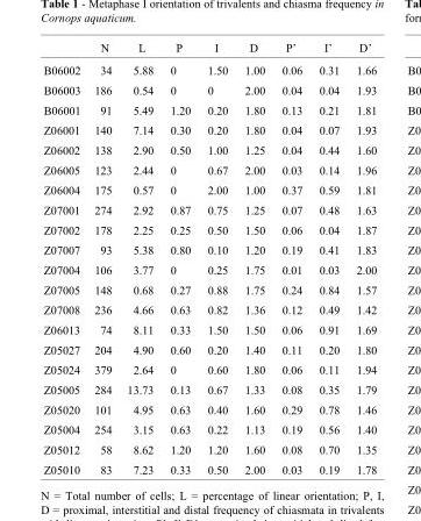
<table><thead><tr><td></td><td>N</td><td>L</td><td>P</td><td>I</td><td>D</td><td>P’</td><td>I’</td><td>D’</td></tr></thead><tbody><tr><td>B06002</td><td>34</td><td>5.88</td><td>0</td><td>1.50</td><td>1.00</td><td>0.06</td><td>0.31</td><td>1.66</td></tr><tr><td>B06003</td><td>186</td><td>0.54</td><td>0</td><td>0</td><td>2.00</td><td>0.04</td><td>0.04</td><td>1.93</td></tr><tr><td>B06001</td><td>91</td><td>5.49</td><td>1.20</td><td>0.20</td><td>1.80</td><td>0.13</td><td>0.21</td><td>1.81</td></tr><tr><td>Z06001</td><td>140</td><td>7.14</td><td>0.30</td><td>0.20</td><td>1.80</td><td>0.04</td><td>0.07</td><td>1.93</td></tr><tr><td>Z06002</td><td>138</td><td>2.90</td><td>0.50</td><td>1.00</td><td>1.25</td><td>0.04</td><td>0.44</td><td>1.60</td></tr><tr><td>Z06005</td><td>123</td><td>2.44</td><td>0</td><td>0.67</td><td>2.00</td><td>0.03</td><td>0.14</td><td>1.96</td></tr><tr><td>Z06004</td><td>175</td><td>0.57</td><td>0</td><td>2.00</td><td>1.00</td><td>0.37</td><td>0.59</td><td>1.81</td></tr><tr><td>Z07001</td><td>274</td><td>2.92</td><td>0.87</td><td>0.75</td><td>1.25</td><td>0.07</td><td>0.48</td><td>1.63</td></tr><tr><td>Z07002</td><td>178</td><td>2.25</td><td>0.25</td><td>0.50</td><td>1.50</td><td>0.06</td><td>0.04</td><td>1.87</td></tr><tr><td>Z07007</td><td>93</td><td>5.38</td><td>0.80</td><td>0.10</td><td>1.20</td><td>0.19</td><td>0.41</td><td>1.83</td></tr><tr><td>Z07004</td><td>106</td><td>3.77</td><td>0</td><td>0.25</td><td>1.75</td><td>0.01</td><td>0.03</td><td>2.00</td></tr><tr><td>Z07005</td><td>148</td><td>0.68</td><td>0.27</td><td>0.88</td><td>1.75</td><td>0.24</td><td>0.84</td><td>1.57</td></tr><tr><td>Z07008</td><td>236</td><td>4.66</td><td>0.63</td><td>0.82</td><td>1.36</td><td>0.12</td><td>0.49</td><td>1.42</td></tr><tr><td>Z06013</td><td>74</td><td>8.11</td><td>0.33</td><td>1.50</td><td>1.50</td><td>0.06</td><td>0.91</td><td>1.69</td></tr><tr><td>Z05027</td><td>204</td><td>4.90</td><td>0.60</td><td>0.20</td><td>1.40</td><td>0.11</td><td>0.20</td><td>1.80</td></tr><tr><td>Z05024</td><td>379</td><td>2.64</td><td>0</td><td>0.60</td><td>1.80</td><td>0.06</td><td>0.11</td><td>1.94</td></tr><tr><td>Z05005</td><td>284</td><td>13.73</td><td>0.13</td><td>0.67</td><td>1.33</td><td>0.08</td><td>0.35</td><td>1.79</td></tr><tr><td>Z05020</td><td>101</td><td>4.95</td><td>0.63</td><td>0.40</td><td>1.60</td><td>0.29</td><td>0.78</td><td>1.46</td></tr><tr><td>Z05004</td><td>254</td><td>3.15</td><td>0.63</td><td>0.22</td><td>1.13</td><td>0.19</td><td>0.56</td><td>1.40</td></tr><tr><td>Z05012</td><td>58</td><td>8.62</td><td>1.20</td><td>1.20</td><td>1.60</td><td>0.08</td><td>0.70</td><td>1.35</td></tr><tr><td>Z05010</td><td>83</td><td>7.23</td><td>0.33</td><td>0.50</td><td>2.00</td><td>0.03</td><td>0.19</td><td>1.78</td></tr></tbody></table>